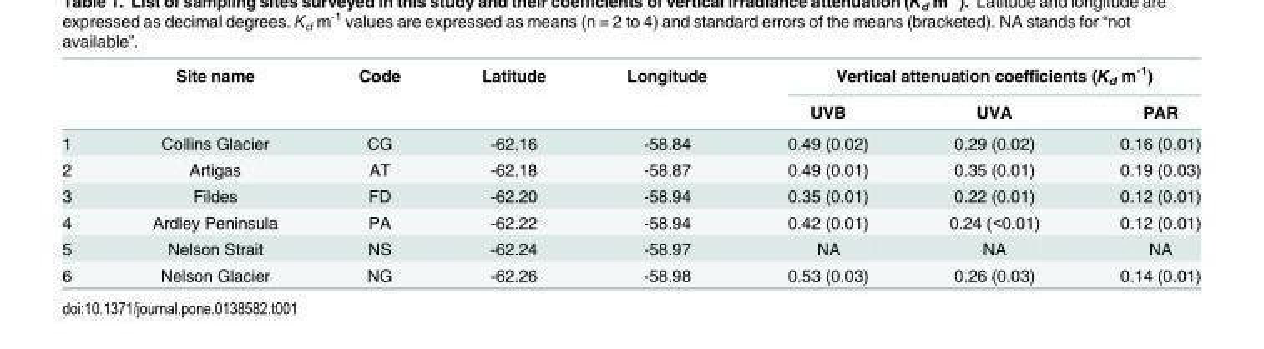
<table><thead><tr><td rowspan="2"></td><td rowspan="2">Site name</td><td rowspan="2">Code</td><td rowspan="2">Latitude</td><td rowspan="2">Longitude</td><td colspan="3">Vertical attenuation coefficients (K<sub>d</sub> m<sup>-1</sup>)</td></tr><tr><td>UVB</td><td>UVA</td><td>PAR</td></tr></thead><tbody><tr><td>1</td><td>Collins Glacier</td><td>CG</td><td>-62.16</td><td>-58.84</td><td>0.49 (0.02)</td><td>0.29 (0.02)</td><td>0.16 (0.01)</td></tr><tr><td>2</td><td>Artigas</td><td>AT</td><td>-62.18</td><td>-58.87</td><td>0.49 (0.01)</td><td>0.35 (0.01)</td><td>0.19 (0.03)</td></tr><tr><td>3</td><td>Fildes</td><td>FD</td><td>-62.20</td><td>-58.94</td><td>0.35 (0.01)</td><td>0.22 (0.01)</td><td>0.12 (0.01)</td></tr><tr><td>4</td><td>Ardley Peninsula</td><td>PA</td><td>-62.22</td><td>-58.94</td><td>0.42 (0.01)</td><td>0.24 (&lt;0.01)</td><td>0.12 (0.01)</td></tr><tr><td>5</td><td>Nelson Strait</td><td>NS</td><td>-62.24</td><td>-58.97</td><td>NA</td><td>NA</td><td>NA</td></tr><tr><td>6</td><td>Nelson Glacier</td><td>NG</td><td>-62.26</td><td>-58.98</td><td>0.53 (0.03)</td><td>0.26 (0.03)</td><td>0.14 (0.01)</td></tr></tbody></table>